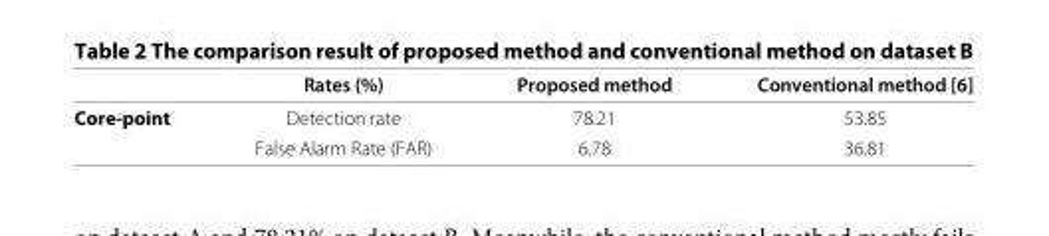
<table><thead><tr><td></td><td>Rates (%)</td><td>Proposed method</td><td>Conventional method [6]</td></tr></thead><tbody><tr><td rowspan="2">Core-point</td><td>Detection rate</td><td>78.21</td><td>53.85</td></tr><tr><td>False Alarm Rate (FAR)</td><td>6.78</td><td>36.81</td></tr></tbody></table>